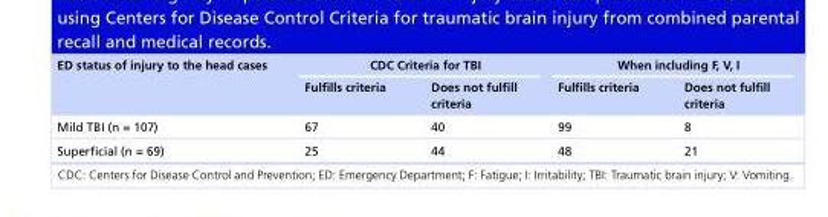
<table><thead><tr><td rowspan="2">ED status of injury to the head cases</td><td colspan="2">CDC Criteria for TBI</td><td colspan="2">When including F, V, I</td></tr><tr><td>Fulfills criteria</td><td>Does not fulfill criteria</td><td>Fulfills criteria</td><td>Does not fulfill criteria</td></tr></thead><tbody><tr><td>Mild TBI (n = 107)</td><td>67</td><td>40</td><td>99</td><td>8</td></tr><tr><td>Superficial (n = 69)</td><td>25</td><td>44</td><td>48</td><td>21</td></tr></tbody></table>